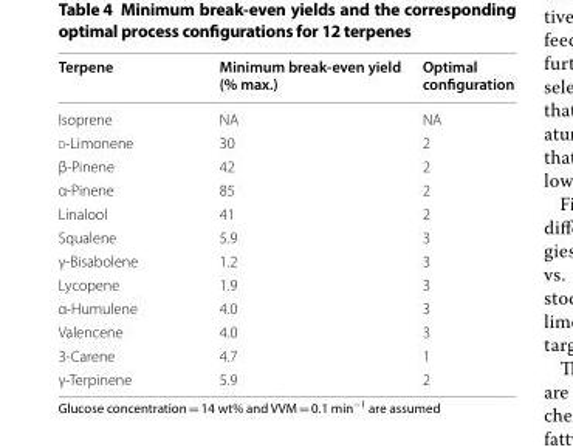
<table><thead><tr><td>Terpene</td><td>Minimum break‑even yield (% max.)</td><td>Optimal configuration</td></tr></thead><tbody><tr><td>Isoprene</td><td>NA</td><td>NA</td></tr><tr><td>d-Limonene</td><td>30</td><td>2</td></tr><tr><td>β-Pinene</td><td>42</td><td>2</td></tr><tr><td>α-Pinene</td><td>85</td><td>2</td></tr><tr><td>Linalool</td><td>41</td><td>2</td></tr><tr><td>Squalene</td><td>5.9</td><td>3</td></tr><tr><td>γ-Bisabolene</td><td>1.2</td><td>3</td></tr><tr><td>Lycopene</td><td>1.9</td><td>3</td></tr><tr><td>α-Humulene</td><td>4.0</td><td>3</td></tr><tr><td>Valencene</td><td>4.0</td><td>3</td></tr><tr><td>3-Carene</td><td>4.7</td><td>1</td></tr><tr><td>γ-Terpinene</td><td>5.9</td><td>2</td></tr></tbody></table>